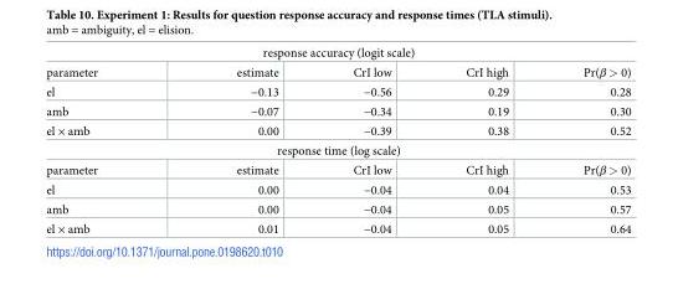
<table><tbody><tr><td colspan="5">response accuracy (logit scale)</td></tr><tr><td>parameter</td><td>estimate</td><td>CrI low</td><td>CrI high</td><td>Pr(β &gt; 0)</td></tr><tr><td>el</td><td>−0.13</td><td>−0.56</td><td>0.29</td><td>0.28</td></tr><tr><td>amb</td><td>−0.07</td><td>−0.34</td><td>0.19</td><td>0.30</td></tr><tr><td>el × amb</td><td>0.00</td><td>−0.39</td><td>0.38</td><td>0.52</td></tr><tr><td colspan="5">response time (log scale)</td></tr><tr><td>parameter</td><td>estimate</td><td>CrI low</td><td>CrI high</td><td>Pr(β &gt; 0)</td></tr><tr><td>el</td><td>0.00</td><td>−0.04</td><td>0.04</td><td>0.53</td></tr><tr><td>amb</td><td>0.00</td><td>−0.04</td><td>0.05</td><td>0.57</td></tr><tr><td>el × amb</td><td>0.01</td><td>−0.04</td><td>0.05</td><td>0.64</td></tr></tbody></table>